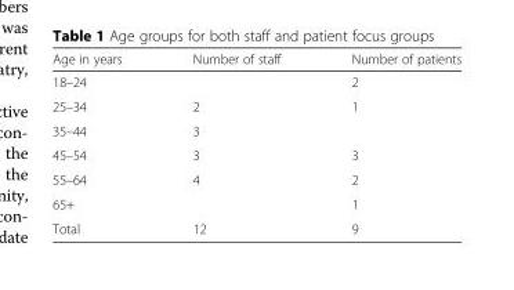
<table><thead><tr><td>Age in years</td><td>Number of staff</td><td>Number of patients</td></tr></thead><tbody><tr><td>18–24</td><td></td><td>2</td></tr><tr><td>25–34</td><td>2</td><td>1</td></tr><tr><td>35–44</td><td>3</td><td></td></tr><tr><td>45–54</td><td>3</td><td>3</td></tr><tr><td>55–64</td><td>4</td><td>2</td></tr><tr><td>65+</td><td></td><td>1</td></tr><tr><td>Total</td><td>12</td><td>9</td></tr></tbody></table>